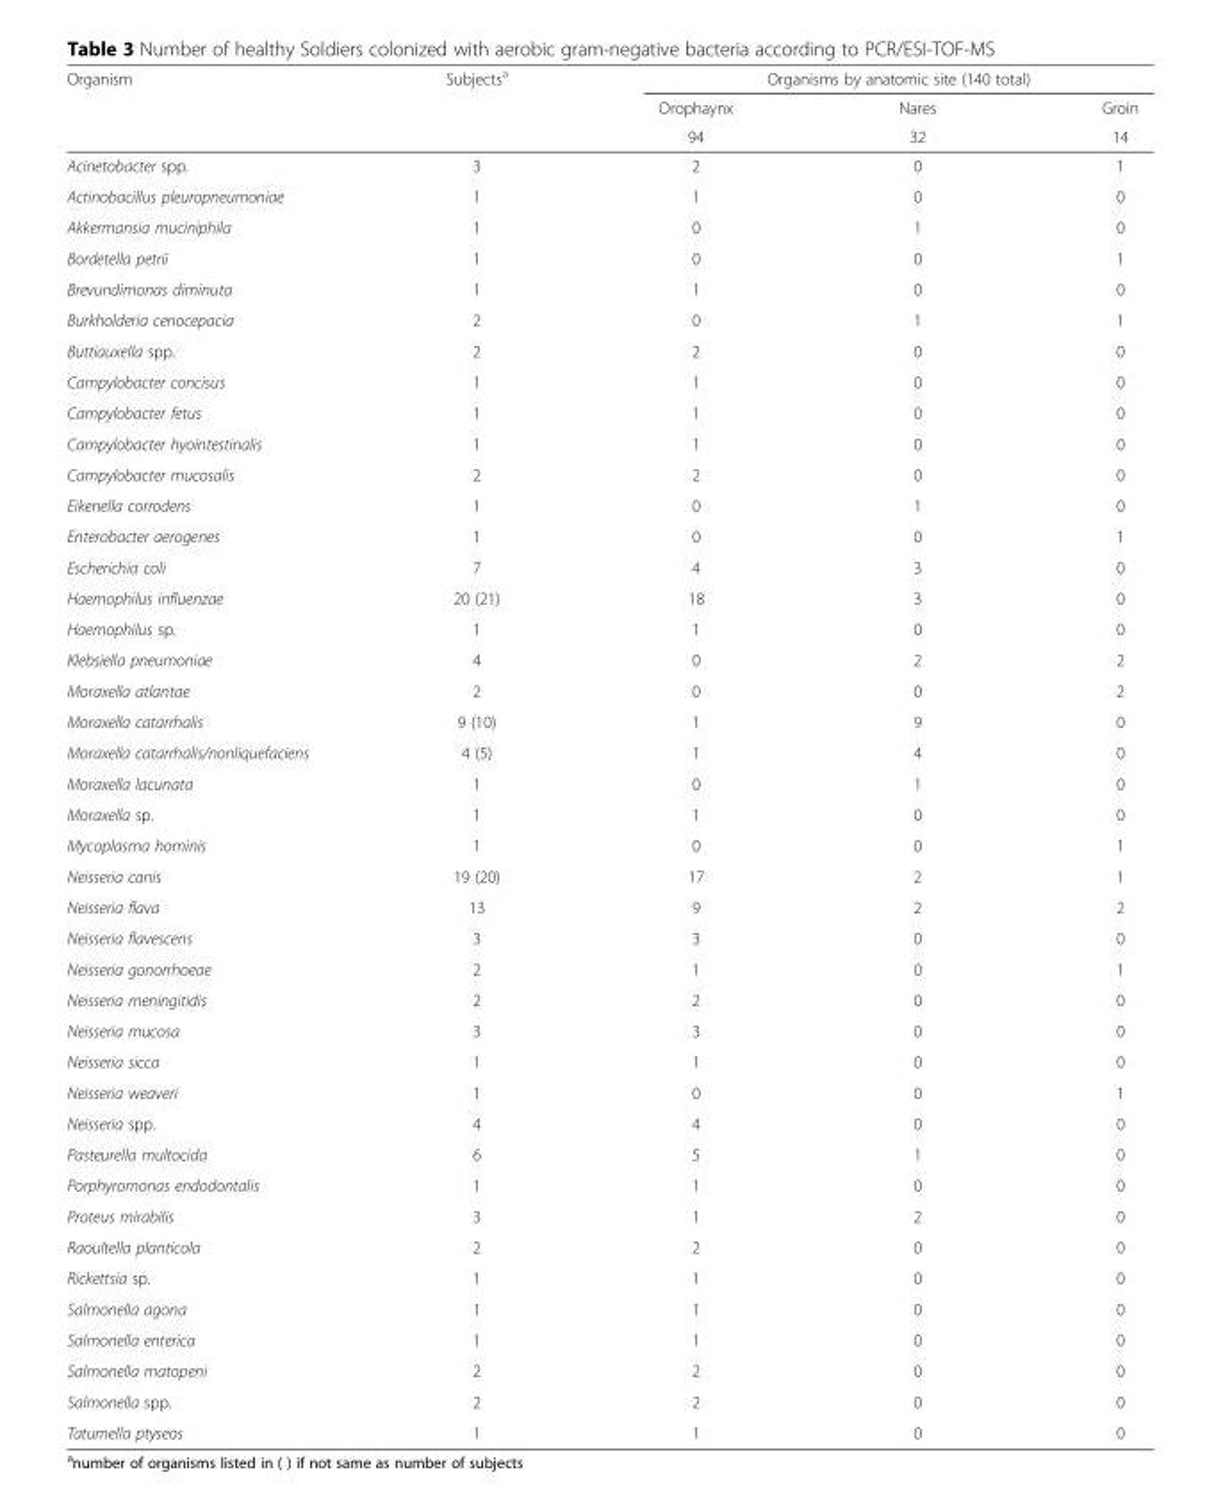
<table><thead><tr><td rowspan="3">Organism</td><td rowspan="3">Subjects<sup>a</sup></td><td colspan="3">Organisms by anatomic site (140 total)</td></tr><tr><td rowspan="2">Orophaynx 94</td><td rowspan="2">Nares 32</td><td rowspan="2">Groin 14</td></tr><tr></tr></thead><tbody><tr><td>Acinetobacter spp.</td><td>3</td><td>2</td><td>0</td><td>1</td></tr><tr><td>Actinobacillus pleuropneumoniae</td><td>1</td><td>1</td><td>0</td><td>0</td></tr><tr><td>Akkermansia muciniphila</td><td>1</td><td>0</td><td>1</td><td>0</td></tr><tr><td>Bordetella petrii</td><td>1</td><td>0</td><td>0</td><td>1</td></tr><tr><td>Brevundimonas diminuta</td><td>1</td><td>1</td><td>0</td><td>0</td></tr><tr><td>Burkholderia cenocepacia</td><td>2</td><td>0</td><td>1</td><td>1</td></tr><tr><td>Buttiauxella spp.</td><td>2</td><td>2</td><td>0</td><td>0</td></tr><tr><td>Campylobacter concisus</td><td>1</td><td>1</td><td>0</td><td>0</td></tr><tr><td>Campylobacter fetus</td><td>1</td><td>1</td><td>0</td><td>0</td></tr><tr><td>Campylobacter hyointestinalis</td><td>1</td><td>1</td><td>0</td><td>0</td></tr><tr><td>Campylobacter mucosalis</td><td>2</td><td>2</td><td>0</td><td>0</td></tr><tr><td>Eikenella corrodens</td><td>1</td><td>0</td><td>1</td><td>0</td></tr><tr><td>Enterobacter aerogenes</td><td>1</td><td>0</td><td>0</td><td>1</td></tr><tr><td>Escherichia coli</td><td>7</td><td>4</td><td>3</td><td>0</td></tr><tr><td>Haemophilus influenzae</td><td>20 (21)</td><td>18</td><td>3</td><td>0</td></tr><tr><td>Haemophilus sp.</td><td>1</td><td>1</td><td>0</td><td>0</td></tr><tr><td>Klebsiella pneumoniae</td><td>4</td><td>0</td><td>2</td><td>2</td></tr><tr><td>Moraxella atlantae</td><td>2</td><td>0</td><td>0</td><td>2</td></tr><tr><td>Moraxella catarrhalis</td><td>9 (10)</td><td>1</td><td>9</td><td>0</td></tr><tr><td>Moraxella catarrhalis/nonliquefaciens</td><td>4 (5)</td><td>1</td><td>4</td><td>0</td></tr><tr><td>Moraxella lacunata</td><td>1</td><td>0</td><td>1</td><td>0</td></tr><tr><td>Moraxella sp.</td><td>1</td><td>1</td><td>0</td><td>0</td></tr><tr><td>Mycoplasma hominis</td><td>1</td><td>0</td><td>0</td><td>1</td></tr><tr><td>Neisseria canis</td><td>19 (20)</td><td>17</td><td>2</td><td>1</td></tr><tr><td>Neisseria flava</td><td>13</td><td>9</td><td>2</td><td>2</td></tr><tr><td>Neisseria flavescens</td><td>3</td><td>3</td><td>0</td><td>0</td></tr><tr><td>Neisseria gonorrhoeae</td><td>2</td><td>1</td><td>0</td><td>1</td></tr><tr><td>Neisseria meningitidis</td><td>2</td><td>2</td><td>0</td><td>0</td></tr><tr><td>Neisseria mucosa</td><td>3</td><td>3</td><td>0</td><td>0</td></tr><tr><td>Neisseria sicca</td><td>1</td><td>1</td><td>0</td><td>0</td></tr><tr><td>Neisseria weaveri</td><td>1</td><td>0</td><td>0</td><td>1</td></tr><tr><td>Neisseria spp.</td><td>4</td><td>4</td><td>0</td><td>0</td></tr><tr><td>Pasteurella multocida</td><td>6</td><td>5</td><td>1</td><td>0</td></tr><tr><td>Porphyromonas endodontalis</td><td>1</td><td>1</td><td>0</td><td>0</td></tr><tr><td>Proteus mirabilis</td><td>3</td><td>1</td><td>2</td><td>0</td></tr><tr><td>Raoultella planticola</td><td>2</td><td>2</td><td>0</td><td>0</td></tr><tr><td>Rickettsia sp.</td><td>1</td><td>1</td><td>0</td><td>0</td></tr><tr><td>Salmonella agona</td><td>1</td><td>1</td><td>0</td><td>0</td></tr><tr><td>Salmonella enterica</td><td>1</td><td>1</td><td>0</td><td>0</td></tr><tr><td>Salmonella matopeni</td><td>2</td><td>2</td><td>0</td><td>0</td></tr><tr><td>Salmonella spp.</td><td>2</td><td>2</td><td>0</td><td>0</td></tr><tr><td>Tatumella ptyseos</td><td>1</td><td>1</td><td>0</td><td>0</td></tr></tbody></table>